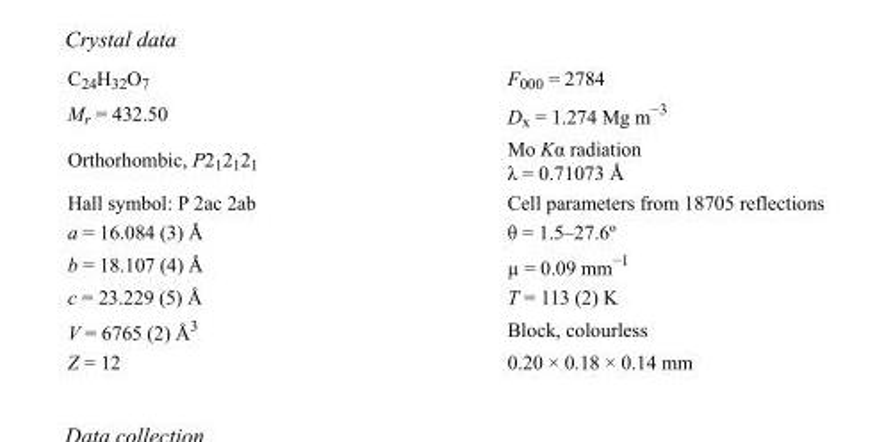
<table><tbody><tr><td>C<sub>24</sub>H<sub>32</sub>O<sub>7</sub></td><td>F<sub>000</sub> = 2784</td></tr><tr><td>M<sub>r</sub> = 432.50</td><td>D<sub>x</sub> = 1.274 Mg m<sup>−3</sup></td></tr><tr><td>Orthorhombic, P2<sub>1</sub>2<sub>1</sub>2<sub>1</sub></td><td>Mo Kα radiation λ = 0.71073 Å</td></tr><tr><td>Hall symbol: P 2ac 2ab</td><td>Cell parameters from 18705 reflections</td></tr><tr><td>a = 16.084 (3) Å</td><td>θ = 1.5–27.6º</td></tr><tr><td>b = 18.107 (4) Å</td><td>µ = 0.09 mm<sup>−1</sup></td></tr><tr><td>c = 23.229 (5) Å</td><td>T = 113 (2) K</td></tr><tr><td>V = 6765 (2) Å<sup>3</sup></td><td>Block, colourless</td></tr><tr><td>Z = 12</td><td>0.20 × 0.18 × 0.14 mm</td></tr></tbody></table>